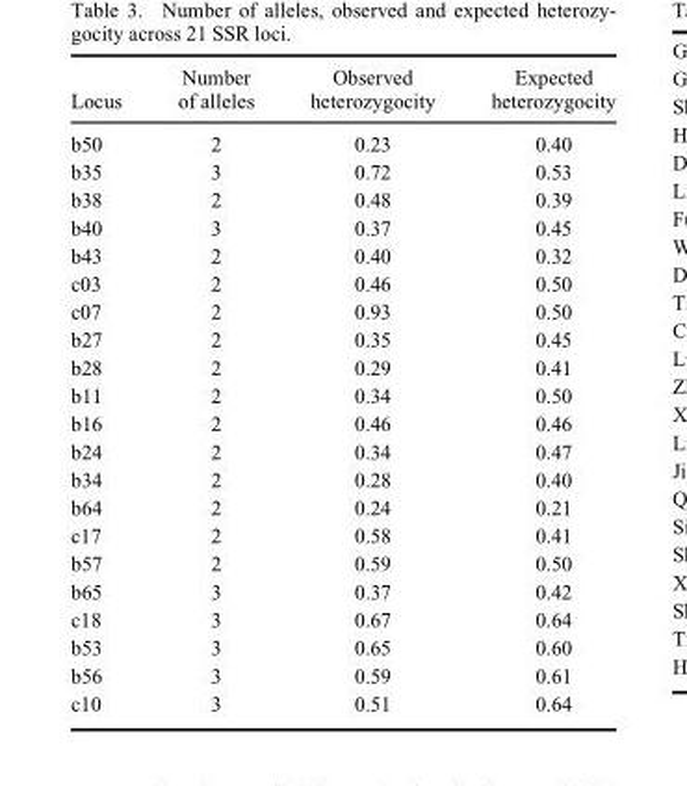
<table><thead><tr><td>Locus</td><td>Number of alleles</td><td>Observed heterozygocity</td><td>Expected heterozygocity</td></tr></thead><tbody><tr><td>b50</td><td>2</td><td>0.23</td><td>0.40</td></tr><tr><td>b35</td><td>3</td><td>0.72</td><td>0.53</td></tr><tr><td>b38</td><td>2</td><td>0.48</td><td>0.39</td></tr><tr><td>b40</td><td>3</td><td>0.37</td><td>0.45</td></tr><tr><td>b43</td><td>2</td><td>0.40</td><td>0.32</td></tr><tr><td>c03</td><td>2</td><td>0.46</td><td>0.50</td></tr><tr><td>c07</td><td>2</td><td>0.93</td><td>0.50</td></tr><tr><td>b27</td><td>2</td><td>0.35</td><td>0.45</td></tr><tr><td>b28</td><td>2</td><td>0.29</td><td>0.41</td></tr><tr><td>b11</td><td>2</td><td>0.34</td><td>0.50</td></tr><tr><td>b16</td><td>2</td><td>0.46</td><td>0.46</td></tr><tr><td>b24</td><td>2</td><td>0.34</td><td>0.47</td></tr><tr><td>b34</td><td>2</td><td>0.28</td><td>0.40</td></tr><tr><td>b64</td><td>2</td><td>0.24</td><td>0.21</td></tr><tr><td>c17</td><td>2</td><td>0.58</td><td>0.41</td></tr><tr><td>b57</td><td>2</td><td>0.59</td><td>0.50</td></tr><tr><td>b65</td><td>3</td><td>0.37</td><td>0.42</td></tr><tr><td>c18</td><td>3</td><td>0.67</td><td>0.64</td></tr><tr><td>b53</td><td>3</td><td>0.65</td><td>0.60</td></tr><tr><td>b56</td><td>3</td><td>0.59</td><td>0.61</td></tr><tr><td>c10</td><td>3</td><td>0.51</td><td>0.64</td></tr></tbody></table>